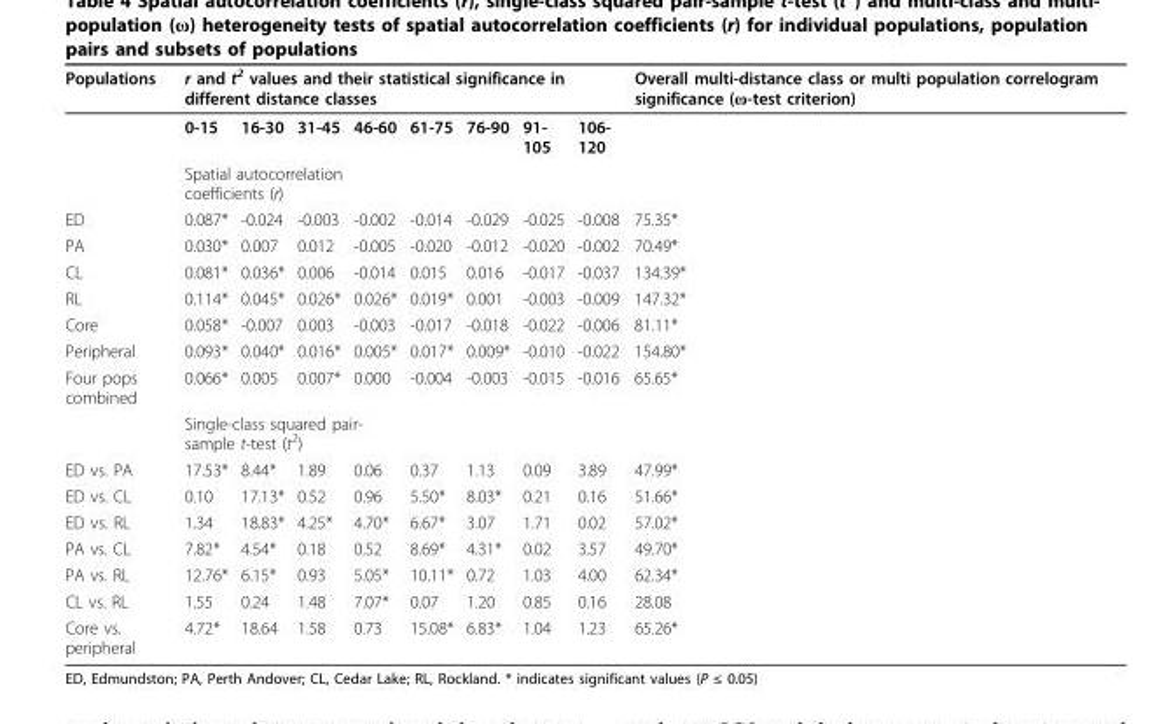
<table><thead><tr><td rowspan="2">Populations</td><td colspan="8">r and t<sup>2</sup> values and their statistical significance in different distance classes</td><td rowspan="2">Overall multi-distance class or multi population correlogram significance (ω-test criterion)</td></tr><tr><td>0-15</td><td>16-30</td><td>31-45</td><td>46-60</td><td>61-75</td><td>76-90</td><td>91- 105</td><td>106- 120</td></tr></thead><tbody><tr><td></td><td colspan="4">Spatial autocorrelation coefficients (r)</td><td></td><td></td><td></td><td></td><td></td></tr><tr><td>ED</td><td>0.087*</td><td>-0.024</td><td>-0.003</td><td>-0.002</td><td>-0.014</td><td>-0.029</td><td>-0.025</td><td>-0.008</td><td>75.35*</td></tr><tr><td>PA</td><td>0.030*</td><td>0.007</td><td>0.012</td><td>-0.005</td><td>-0.020</td><td>-0.012</td><td>-0.020</td><td>-0.002</td><td>70.49*</td></tr><tr><td>CL</td><td>0.081*</td><td>0.036*</td><td>0.006</td><td>-0.014</td><td>0.015</td><td>0.016</td><td>-0.017</td><td>-0.037</td><td>134.39*</td></tr><tr><td>RL</td><td>0.114*</td><td>0.045*</td><td>0.026*</td><td>0.026*</td><td>0.019*</td><td>0.001</td><td>-0.003</td><td>-0.009</td><td>147.32*</td></tr><tr><td>Core</td><td>0.058*</td><td>-0.007</td><td>0.003</td><td>-0.003</td><td>-0.017</td><td>-0.018</td><td>-0.022</td><td>-0.006</td><td>81.11*</td></tr><tr><td>Peripheral</td><td>0.093*</td><td>0.040*</td><td>0.016*</td><td>0.005*</td><td>0.017*</td><td>0.009*</td><td>-0.010</td><td>-0.022</td><td>154.80*</td></tr><tr><td rowspan="2">Four pops combined</td><td>0.066*</td><td>0.005</td><td>0.007*</td><td>0.000</td><td>-0.004</td><td>-0.003</td><td>-0.015</td><td>-0.016</td><td>65.65*</td></tr><tr><td colspan="4">Single-class squared pair- sample t-test (t<sup>2</sup>)</td><td></td><td></td><td></td><td></td><td></td></tr><tr><td>ED vs. PA</td><td>17.53*</td><td>8.44*</td><td>1.89</td><td>0.06</td><td>0.37</td><td>1.13</td><td>0.09</td><td>3.89</td><td>47.99*</td></tr><tr><td>ED vs. CL</td><td>0.10</td><td>17.13*</td><td>0.52</td><td>0.96</td><td>5.50*</td><td>8.03*</td><td>0.21</td><td>0.16</td><td>51.66*</td></tr><tr><td>ED vs. RL</td><td>1.34</td><td>18.83*</td><td>4.25*</td><td>4.70*</td><td>6.67*</td><td>3.07</td><td>1.71</td><td>0.02</td><td>57.02*</td></tr><tr><td>PA vs. CL</td><td>7.82*</td><td>4.54*</td><td>0.18</td><td>0.52</td><td>8.69*</td><td>4.31*</td><td>0.02</td><td>3.57</td><td>49.70*</td></tr><tr><td>PA vs. RL</td><td>12.76*</td><td>6.15*</td><td>0.93</td><td>5.05*</td><td>10.11*</td><td>0.72</td><td>1.03</td><td>4.00</td><td>62.34*</td></tr><tr><td>CL vs. RL</td><td>1.55</td><td>0.24</td><td>1.48</td><td>7.07*</td><td>0.07</td><td>1.20</td><td>0.85</td><td>0.16</td><td>28.08</td></tr><tr><td>Core vs. peripheral</td><td>4.72*</td><td>18.64</td><td>1.58</td><td>0.73</td><td>15.08*</td><td>6.83*</td><td>1.04</td><td>1.23</td><td>65.26*</td></tr></tbody></table>